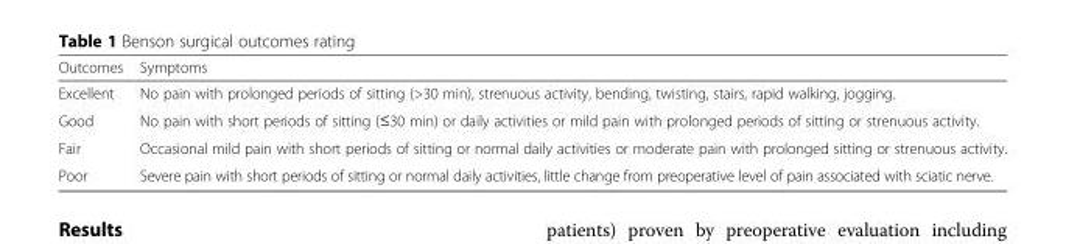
<table><thead><tr><td>Outcomes</td><td>Symptoms</td></tr></thead><tbody><tr><td>Excellent</td><td>No pain with prolonged periods of sitting (&gt;30 min), strenuous activity, bending, twisting, stairs, rapid walking, jogging.</td></tr><tr><td>Good</td><td>No pain with short periods of sitting (≤30 min) or daily activities or mild pain with prolonged periods of sitting or strenuous activity.</td></tr><tr><td>Fair</td><td>Occasional mild pain with short periods of sitting or normal daily activities or moderate pain with prolonged sitting or strenuous activity.</td></tr><tr><td>Poor</td><td>Severe pain with short periods of sitting or normal daily activities, little change from preoperative level of pain associated with sciatic nerve.</td></tr></tbody></table>